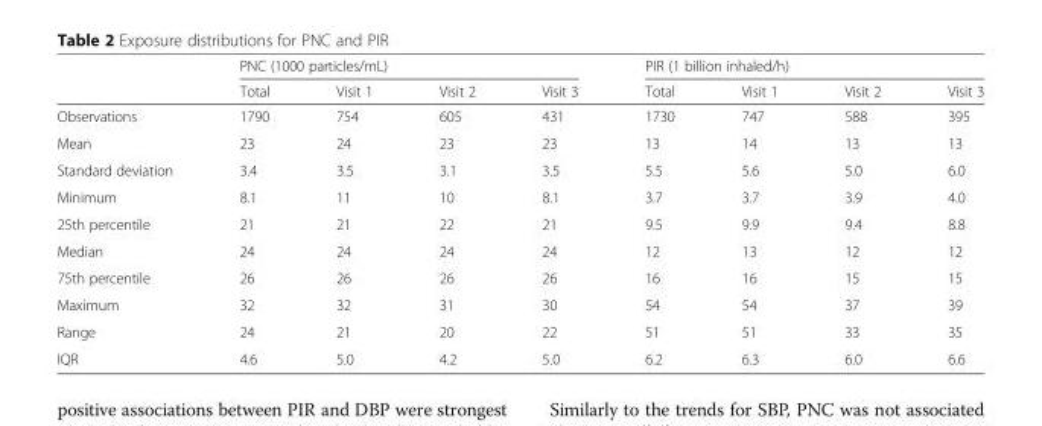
<table><thead><tr><td rowspan="2"></td><td colspan="4">PNC (1000 particles/mL)</td><td colspan="4">PIR (1 billion inhaled/h)</td></tr><tr><td>Total</td><td>Visit 1</td><td>Visit 2</td><td>Visit 3</td><td>Total</td><td>Visit 1</td><td>Visit 2</td><td>Visit 3</td></tr></thead><tbody><tr><td>Observations</td><td>1790</td><td>754</td><td>605</td><td>431</td><td>1730</td><td>747</td><td>588</td><td>395</td></tr><tr><td>Mean</td><td>23</td><td>24</td><td>23</td><td>23</td><td>13</td><td>14</td><td>13</td><td>13</td></tr><tr><td>Standard deviation</td><td>3.4</td><td>3.5</td><td>3.1</td><td>3.5</td><td>5.5</td><td>5.6</td><td>5.0</td><td>6.0</td></tr><tr><td>Minimum</td><td>8.1</td><td>11</td><td>10</td><td>8.1</td><td>3.7</td><td>3.7</td><td>3.9</td><td>4.0</td></tr><tr><td>25th percentile</td><td>21</td><td>21</td><td>22</td><td>21</td><td>9.5</td><td>9.9</td><td>9.4</td><td>8.8</td></tr><tr><td>Median</td><td>24</td><td>24</td><td>24</td><td>24</td><td>12</td><td>13</td><td>12</td><td>12</td></tr><tr><td>75th percentile</td><td>26</td><td>26</td><td>26</td><td>26</td><td>16</td><td>16</td><td>15</td><td>15</td></tr><tr><td>Maximum</td><td>32</td><td>32</td><td>31</td><td>30</td><td>54</td><td>54</td><td>37</td><td>39</td></tr><tr><td>Range</td><td>24</td><td>21</td><td>20</td><td>22</td><td>51</td><td>51</td><td>33</td><td>35</td></tr><tr><td>IQR</td><td>4.6</td><td>5.0</td><td>4.2</td><td>5.0</td><td>6.2</td><td>6.3</td><td>6.0</td><td>6.6</td></tr></tbody></table>